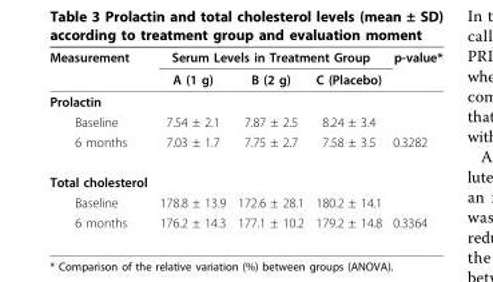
<table><thead><tr><td rowspan="2">Measurement</td><td colspan="3">Serum Levels in Treatment Group</td><td rowspan="2">p-value*</td></tr><tr><td>A (1 g)</td><td>B (2 g)</td><td>C (Placebo)</td></tr></thead><tbody><tr><td colspan="5">Prolactin</td></tr><tr><td>Baseline</td><td>7.54 ± 2.1</td><td>7.87 ± 2.5</td><td>8.24 ± 3.4</td><td></td></tr><tr><td>6 months</td><td>7.03 ± 1.7</td><td>7.75 ± 2.7</td><td>7.58 ± 3.5</td><td>0.3282</td></tr><tr><td colspan="5">Total cholesterol</td></tr><tr><td>Baseline</td><td>178.8 ± 13.9</td><td>172.6 ± 28.1</td><td>180.2 ± 14.1</td><td></td></tr><tr><td>6 months</td><td>176.2 ± 14.3</td><td>177.1 ± 10.2</td><td>179.2 ± 14.8</td><td>0.3364</td></tr></tbody></table>